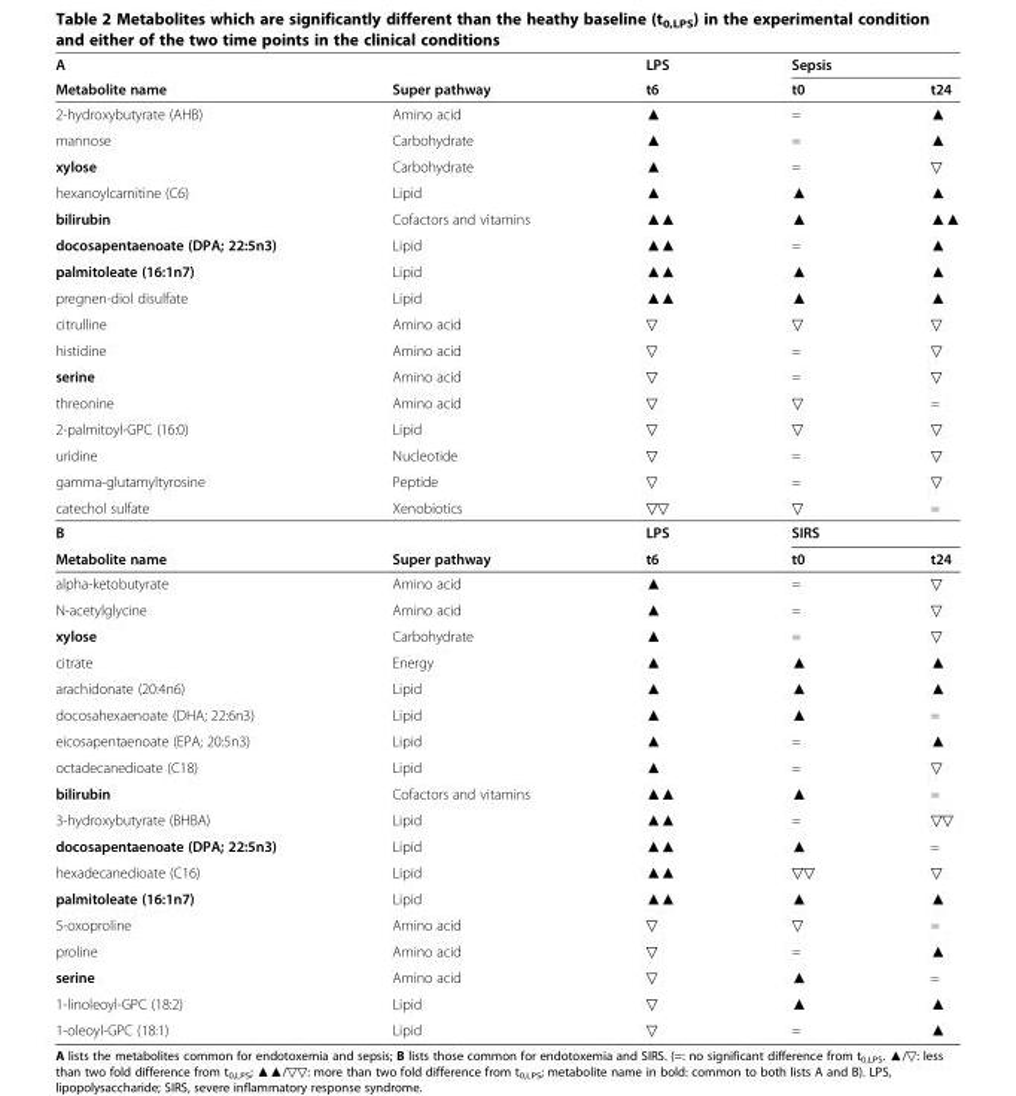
<table><thead><tr><td rowspan="2">A Metabolite name</td><td rowspan="2">Super pathway</td><td rowspan="2">LPS t6</td><td colspan="2">Sepsis</td></tr><tr><td>t0</td><td>t24</td></tr></thead><tbody><tr><td>2-hydroxybutyrate (AHB)</td><td>Amino acid</td><td>▲</td><td>=</td><td>▲</td></tr><tr><td>mannose</td><td>Carbohydrate</td><td>▲</td><td>=</td><td>▲</td></tr><tr><td>xylose</td><td>Carbohydrate</td><td>▲</td><td>=</td><td>▽</td></tr><tr><td>hexanoylcarnitine (C6)</td><td>Lipid</td><td>▲</td><td>▲</td><td>▲</td></tr><tr><td>bilirubin</td><td>Cofactors and vitamins</td><td>▲▲</td><td>▲</td><td>▲▲</td></tr><tr><td>docosapentaenoate (DPA; 22:5n3)</td><td>Lipid</td><td>▲▲</td><td>=</td><td>▲</td></tr><tr><td>palmitoleate (16:1n7)</td><td>Lipid</td><td>▲▲</td><td>▲</td><td>▲</td></tr><tr><td>pregnen-diol disulfate</td><td>Lipid</td><td>▲▲</td><td>▲</td><td>▲</td></tr><tr><td>citrulline</td><td>Amino acid</td><td>▽</td><td>▽</td><td>▽</td></tr><tr><td>histidine</td><td>Amino acid</td><td>▽</td><td>=</td><td>▽</td></tr><tr><td>serine</td><td>Amino acid</td><td>▽</td><td>=</td><td>▽</td></tr><tr><td>threonine</td><td>Amino acid</td><td>▽</td><td>▽</td><td>=</td></tr><tr><td>2-palmitoyl-GPC (16:0)</td><td>Lipid</td><td>▽</td><td>▽</td><td>▽</td></tr><tr><td>uridine</td><td>Nucleotide</td><td>▽</td><td>=</td><td>▽</td></tr><tr><td>gamma-glutamyltyrosine</td><td>Peptide</td><td>▽</td><td>=</td><td>▽</td></tr><tr><td>catechol sulfate</td><td>Xenobiotics</td><td>▽▽</td><td>▽</td><td>=</td></tr><tr><td>B</td><td></td><td>LPS</td><td colspan="2">SIRS</td></tr><tr><td>Metabolite name</td><td>Super pathway</td><td>t6</td><td>t0</td><td>t24</td></tr><tr><td>alpha-ketobutyrate</td><td>Amino acid</td><td>▲</td><td>=</td><td>▽</td></tr><tr><td>N-acetylglycine</td><td>Amino acid</td><td>▲</td><td>=</td><td>▽</td></tr><tr><td>xylose</td><td>Carbohydrate</td><td>▲</td><td>=</td><td>▽</td></tr><tr><td>citrate</td><td>Energy</td><td>▲</td><td>▲</td><td>▲</td></tr><tr><td>arachidonate (20:4n6)</td><td>Lipid</td><td>▲</td><td>▲</td><td>▲</td></tr><tr><td>docosahexaenoate (DHA; 22:6n3)</td><td>Lipid</td><td>▲</td><td>▲</td><td>=</td></tr><tr><td>eicosapentaenoate (EPA; 20:5n3)</td><td>Lipid</td><td>▲</td><td>=</td><td>▲</td></tr><tr><td>octadecanedioate (C18)</td><td>Lipid</td><td>▲</td><td>=</td><td>▽</td></tr><tr><td>bilirubin</td><td>Cofactors and vitamins</td><td>▲▲</td><td>▲</td><td>=</td></tr><tr><td>3-hydroxybutyrate (BHBA)</td><td>Lipid</td><td>▲▲</td><td>=</td><td>▽▽</td></tr><tr><td>docosapentaenoate (DPA; 22:5n3)</td><td>Lipid</td><td>▲▲</td><td>▲</td><td>=</td></tr><tr><td>hexadecanedioate (C16)</td><td>Lipid</td><td>▲▲</td><td>▽▽</td><td>▽</td></tr><tr><td>palmitoleate (16:1n7)</td><td>Lipid</td><td>▲▲</td><td>▲</td><td>▲</td></tr><tr><td>5-oxoproline</td><td>Amino acid</td><td>▽</td><td>▽</td><td>=</td></tr><tr><td>proline</td><td>Amino acid</td><td>▽</td><td>=</td><td>▲</td></tr><tr><td>serine</td><td>Amino acid</td><td>▽</td><td>▲</td><td>=</td></tr><tr><td>1-linoleoyl-GPC (18:2)</td><td>Lipid</td><td>▽</td><td>▲</td><td>▲</td></tr><tr><td>1-oleoyl-GPC (18:1)</td><td>Lipid</td><td>▽</td><td>=</td><td>▲</td></tr></tbody></table>